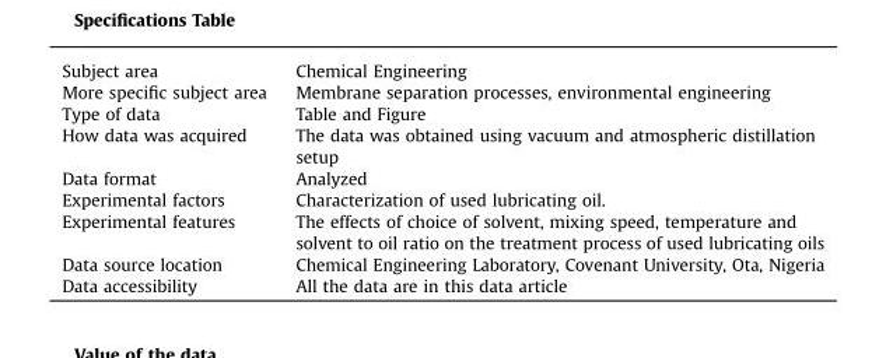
<table><tbody><tr><td>Subject area</td><td>Chemical Engineering</td></tr><tr><td>More specific subject area</td><td>Membrane separation processes, environmental engineering</td></tr><tr><td>Type of data</td><td>Table and Figure</td></tr><tr><td>How data was acquired</td><td>The data was obtained using vacuum and atmospheric distillation setup</td></tr><tr><td>Data format</td><td>Analyzed</td></tr><tr><td>Experimental factors</td><td>Characterization of used lubricating oil.</td></tr><tr><td>Experimental features</td><td>The effects of choice of solvent, mixing speed, temperature and solvent to oil ratio on the treatment process of used lubricating oils</td></tr><tr><td>Data source location</td><td>Chemical Engineering Laboratory, Covenant University, Ota, Nigeria</td></tr><tr><td>Data accessibility</td><td>All the data are in this data article</td></tr></tbody></table>